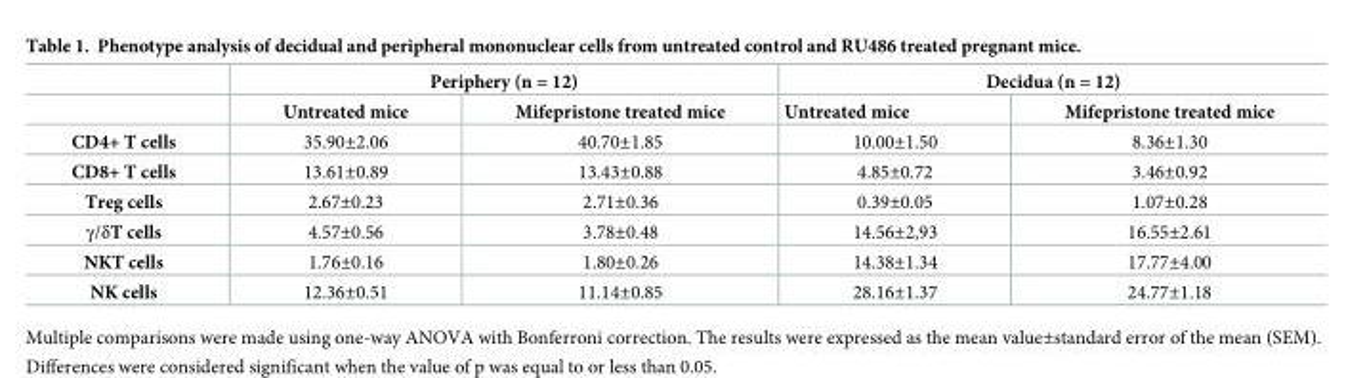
<table><thead><tr><td rowspan="2"></td><td colspan="2">Periphery (n = 12)</td><td colspan="2">Decidua (n = 12)</td></tr><tr><td>Untreated mice</td><td>Mifepristone treated mice</td><td>Untreated mice</td><td>Mifepristone treated mice</td></tr></thead><tbody><tr><td>CD4+ T cells</td><td>35.90±2.06</td><td>40.70±1.85</td><td>10.00±1.50</td><td>8.36±1.30</td></tr><tr><td>CD8+ T cells</td><td>13.61±0.89</td><td>13.43±0.88</td><td>4.85±0.72</td><td>3.46±0.92</td></tr><tr><td>Treg cells</td><td>2.67±0.23</td><td>2.71±0.36</td><td>0.39±0.05</td><td>1.07±0.28</td></tr><tr><td>γ/δT cells</td><td>4.57±0.56</td><td>3.78±0.48</td><td>14.56±2,93</td><td>16.55±2.61</td></tr><tr><td>NKT cells</td><td>1.76±0.16</td><td>1.80±0.26</td><td>14.38±1.34</td><td>17.77±4.00</td></tr><tr><td>NK cells</td><td>12.36±0.51</td><td>11.14±0.85</td><td>28.16±1.37</td><td>24.77±1.18</td></tr></tbody></table>